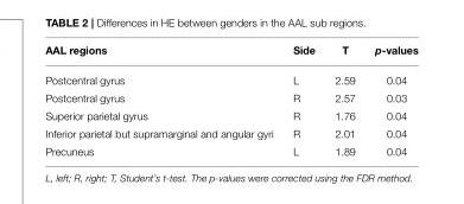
<table><thead><tr><td>AAL regions</td><td>Side</td><td>T</td><td>p-values</td></tr></thead><tbody><tr><td>Postcentral gyrus</td><td>L</td><td>2.59</td><td>0.04</td></tr><tr><td>Postcentral gyrus</td><td>R</td><td>2.57</td><td>0.03</td></tr><tr><td>Superior parietal gyrus</td><td>R</td><td>1.76</td><td>0.04</td></tr><tr><td>Inferior parietal but supramarginal and angular gyri</td><td>R</td><td>2.01</td><td>0.04</td></tr><tr><td>Precuneus</td><td>L</td><td>1.89</td><td>0.04</td></tr></tbody></table>